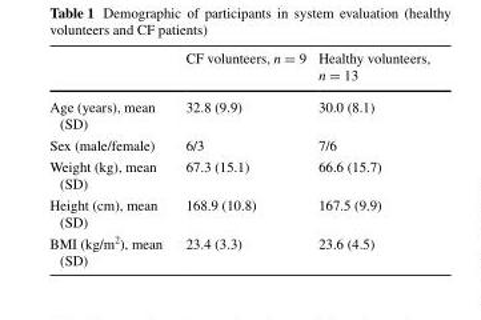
<table><thead><tr><td></td><td>CF volunteers, n = 9</td><td>Healthy volunteers, n = 13</td></tr></thead><tbody><tr><td>Age (years), mean (SD)</td><td>32.8 (9.9)</td><td>30.0 (8.1)</td></tr><tr><td>Sex (male/female)</td><td>6/3</td><td>7/6</td></tr><tr><td>Weight (kg), mean (SD)</td><td>67.3 (15.1)</td><td>66.6 (15.7)</td></tr><tr><td>Height (cm), mean (SD)</td><td>168.9 (10.8)</td><td>167.5 (9.9)</td></tr><tr><td>BMI (kg/m<sup>2</sup>), mean (SD)</td><td>23.4 (3.3)</td><td>23.6 (4.5)</td></tr></tbody></table>